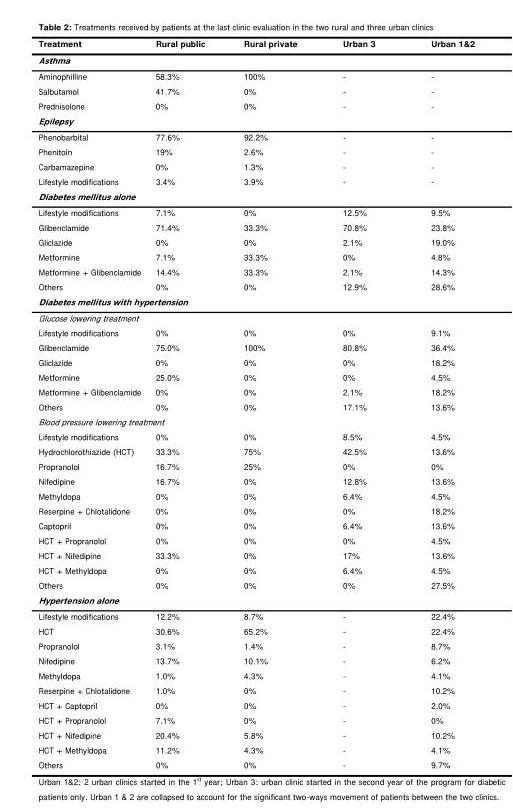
<table><thead><tr><td>Treatment</td><td>Rural public</td><td>Rural private</td><td>Urban 3</td><td>Urban 1&amp;2</td></tr></thead><tbody><tr><td colspan="5">Asthma</td></tr><tr><td>Aminophilline</td><td>58.3%</td><td>100%</td><td>-</td><td>-</td></tr><tr><td>Salbutamol</td><td>41.7%</td><td>0%</td><td>-</td><td>-</td></tr><tr><td>Prednisolone</td><td>0%</td><td>0%</td><td>-</td><td>-</td></tr><tr><td colspan="5">Epilepsy</td></tr><tr><td>Phenobarbital</td><td>77.6%</td><td>92.2%</td><td>-</td><td>-</td></tr><tr><td>Phenitoin</td><td>19%</td><td>2.6%</td><td>-</td><td>-</td></tr><tr><td>Carbamazepine</td><td>0%</td><td>1.3%</td><td>-</td><td>-</td></tr><tr><td>Lifestyle modifications</td><td>3.4%</td><td>3.9%</td><td>-</td><td>-</td></tr><tr><td colspan="5">Diabetes mellitus alone</td></tr><tr><td>Lifestyle modifications</td><td>7.1%</td><td>0%</td><td>12.5%</td><td>9.5%</td></tr><tr><td>Glibenclamide</td><td>71.4%</td><td>33.3%</td><td>70.8%</td><td>23.8%</td></tr><tr><td>Gliclazide</td><td>0%</td><td>0%</td><td>2.1%</td><td>19.0%</td></tr><tr><td>Metformine</td><td>7.1%</td><td>33.3%</td><td>0%</td><td>4.8%</td></tr><tr><td>Metformine + Glibenclamide</td><td>14.4%</td><td>33.3%</td><td>2.1%</td><td>14.3%</td></tr><tr><td>Others</td><td>0%</td><td>0%</td><td>12.9%</td><td>28.6%</td></tr><tr><td colspan="5">Diabetes mellitus with hypertension</td></tr><tr><td colspan="5">Glucose lowering treatment</td></tr><tr><td>Lifestyle modifications</td><td>0%</td><td>0%</td><td>0%</td><td>9.1%</td></tr><tr><td>Glibenclamide</td><td>75.0%</td><td>100%</td><td>80.8%</td><td>36.4%</td></tr><tr><td>Gliclazide</td><td>0%</td><td>0%</td><td>0%</td><td>18.2%</td></tr><tr><td>Metformine</td><td>25.0%</td><td>0%</td><td>0%</td><td>4.5%</td></tr><tr><td>Metformine + Glibenclamide</td><td>0%</td><td>0%</td><td>2.1%</td><td>18.2%</td></tr><tr><td>Others</td><td>0%</td><td>0%</td><td>17.1%</td><td>13.6%</td></tr><tr><td colspan="5">Blood pressure lowering treatment</td></tr><tr><td>Lifestyle modifications</td><td>0%</td><td>0%</td><td>8.5%</td><td>4.5%</td></tr><tr><td>Hydrochlorothiazide (HCT)</td><td>33.3%</td><td>75%</td><td>42.5%</td><td>13.6%</td></tr><tr><td>Propranolol</td><td>16.7%</td><td>25%</td><td>0%</td><td>0%</td></tr><tr><td>Nifedipine</td><td>16.7%</td><td>0%</td><td>12.8%</td><td>13.6%</td></tr><tr><td>Methyldopa</td><td>0%</td><td>0%</td><td>6.4%</td><td>4.5%</td></tr><tr><td>Reserpine + Chlotalidone</td><td>0%</td><td>0%</td><td>0%</td><td>18.2%</td></tr><tr><td>Captopril</td><td>0%</td><td>0%</td><td>6.4%</td><td>13.6%</td></tr><tr><td>HCT + Propranolol</td><td>0%</td><td>0%</td><td>0%</td><td>4.5%</td></tr><tr><td>HCT + Nifedipine</td><td>33.3%</td><td>0%</td><td>17%</td><td>13.6%</td></tr><tr><td>HCT + Methyldopa</td><td>0%</td><td>0%</td><td>6.4%</td><td>4.5%</td></tr><tr><td>Others</td><td>0%</td><td>0%</td><td>0%</td><td>27.5%</td></tr><tr><td colspan="5">Hypertension alone</td></tr><tr><td>Lifestyle modifications</td><td>12.2%</td><td>8.7%</td><td>-</td><td>22.4%</td></tr><tr><td>HCT</td><td>30.6%</td><td>65.2%</td><td>-</td><td>22.4%</td></tr><tr><td>Propranolol</td><td>3.1%</td><td>1.4%</td><td>-</td><td>8.7%</td></tr><tr><td>Nifedipine</td><td>13.7%</td><td>10.1%</td><td>-</td><td>6.2%</td></tr><tr><td>Methyldopa</td><td>1.0%</td><td>4.3%</td><td>-</td><td>4.1%</td></tr><tr><td>Reserpine + Chlotalidone</td><td>1.0%</td><td>0%</td><td>-</td><td>10.2%</td></tr><tr><td>HCT + Captopril</td><td>0%</td><td>0%</td><td>-</td><td>2.0%</td></tr><tr><td>HCT + Propranolol</td><td>7.1%</td><td>0%</td><td>-</td><td>0%</td></tr><tr><td>HCT + Nifedipine</td><td>20.4%</td><td>5.8%</td><td>-</td><td>10.2%</td></tr><tr><td>HCT + Methyldopa</td><td>11.2%</td><td>4.3%</td><td>-</td><td>4.1%</td></tr><tr><td>Others</td><td>0%</td><td>0%</td><td>-</td><td>9.7%</td></tr></tbody></table>